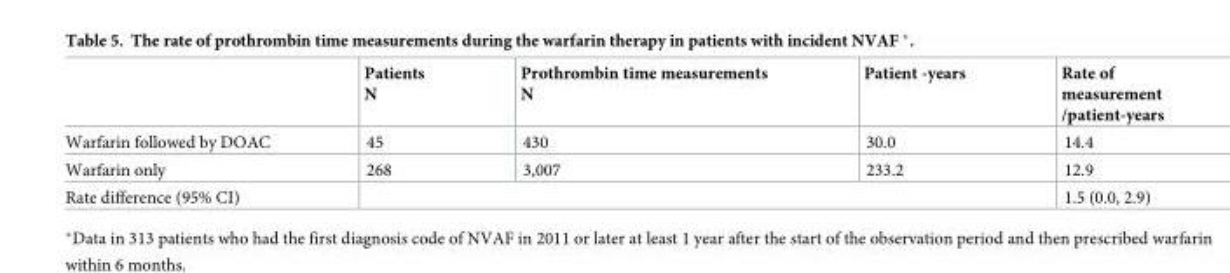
<table><thead><tr><td></td><td>Patients N</td><td>Prothrombin time measurements N</td><td>Patient -years</td><td>Rate of measurement /patient-years</td></tr></thead><tbody><tr><td>Warfarin followed by DOAC</td><td>45</td><td>430</td><td>30.0</td><td>14.4</td></tr><tr><td>Warfarin only</td><td>268</td><td>3,007</td><td>233.2</td><td>12.9</td></tr><tr><td>Rate difference (95% CI)</td><td colspan="3"></td><td>1.5 (0.0, 2.9)</td></tr></tbody></table>